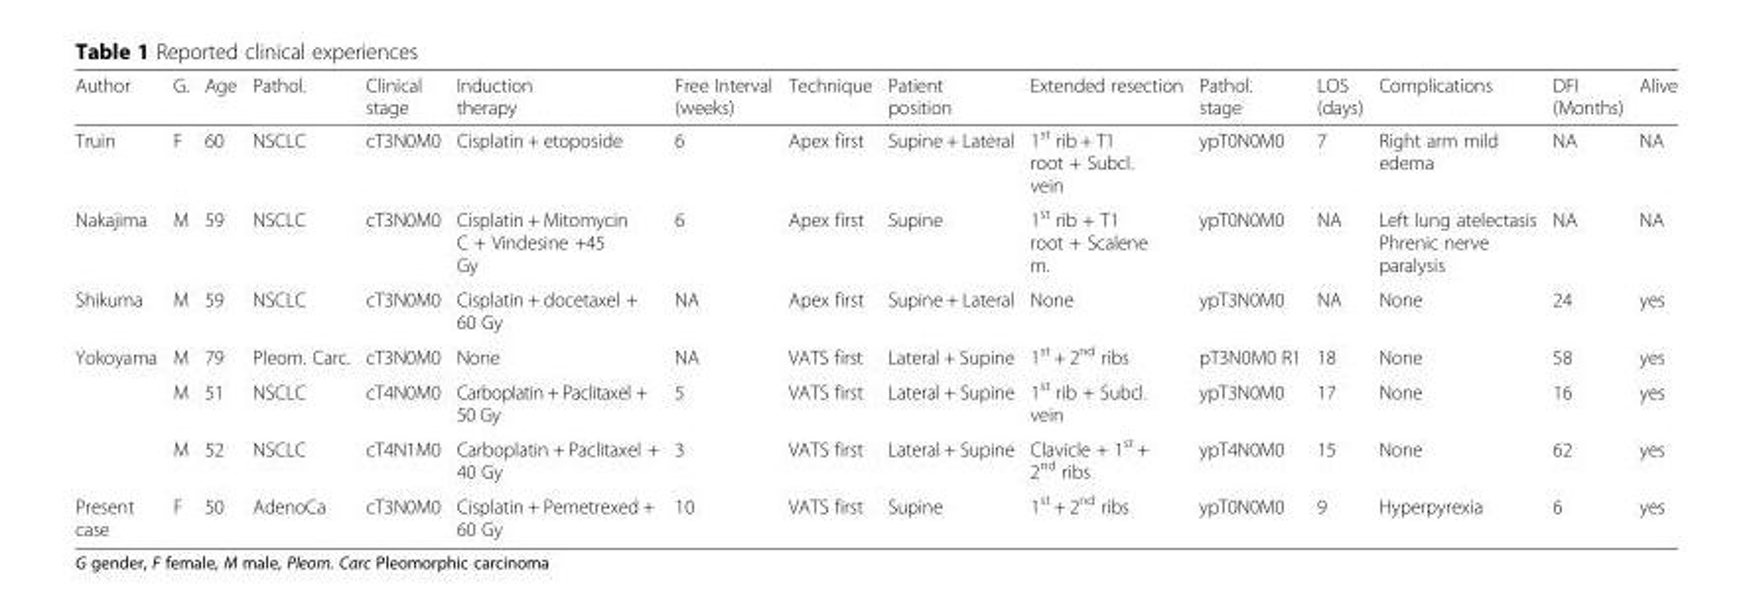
<table><thead><tr><td>Author</td><td>G.</td><td>Age</td><td>Pathol.</td><td>Clinical stage</td><td>Induction therapy</td><td>Free Interval (weeks)</td><td>Technique</td><td>Patient position</td><td>Extended resection</td><td>Pathol. stage</td><td>LOS (days)</td><td>Complications</td><td>DFI (Months)</td><td>Alive</td></tr></thead><tbody><tr><td>Truin</td><td>F</td><td>60</td><td>NSCLC</td><td>cT3N0M0</td><td>Cisplatin + etoposide</td><td>6</td><td>Apex first</td><td>Supine + Lateral</td><td>1<sup>st</sup> rib + T1 root + Subcl. vein</td><td>ypT0N0M0</td><td>7</td><td>Right arm mild edema</td><td>NA</td><td>NA</td></tr><tr><td>Nakajima</td><td>M</td><td>59</td><td>NSCLC</td><td>cT3N0M0</td><td>Cisplatin + Mitomycin C + Vindesine +45 Gy</td><td>6</td><td>Apex first</td><td>Supine</td><td>1<sup>st</sup> rib + T1 root + Scalene m.</td><td>ypT0N0M0</td><td>NA</td><td>Left lung atelectasis Phrenic nerve paralysis</td><td>NA</td><td>NA</td></tr><tr><td>Shikuma</td><td>M</td><td>59</td><td>NSCLC</td><td>cT3N0M0</td><td>Cisplatin + docetaxel + 60 Gy</td><td>NA</td><td>Apex first</td><td>Supine + Lateral</td><td>None</td><td>ypT3N0M0</td><td>NA</td><td>None</td><td>24</td><td>yes</td></tr><tr><td rowspan="3">Yokoyama</td><td>M</td><td>79</td><td>Pleom. Carc.</td><td>cT3N0M0</td><td>None</td><td>NA</td><td>VATS first</td><td>Lateral + Supine</td><td>1<sup>st</sup> + 2<sup>nd</sup> ribs</td><td>pT3N0M0 R1</td><td>18</td><td>None</td><td>58</td><td>yes</td></tr><tr><td>M</td><td>51</td><td>NSCLC</td><td>cT4N0M0</td><td>Carboplatin + Paclitaxel + 50 Gy</td><td>5</td><td>VATS first</td><td>Lateral + Supine</td><td>1<sup>st</sup> rib + Subcl. vein</td><td>ypT3N0M0</td><td>17</td><td>None</td><td>16</td><td>yes</td></tr><tr><td>M</td><td>52</td><td>NSCLC</td><td>cT4N1M0</td><td>Carboplatin + Paclitaxel + 40 Gy</td><td>3</td><td>VATS first</td><td>Lateral + Supine</td><td>Clavicle + 1<sup>st</sup> + 2<sup>nd</sup> ribs</td><td>ypT4N0M0</td><td>15</td><td>None</td><td>62</td><td>yes</td></tr><tr><td>Present case</td><td>F</td><td>50</td><td>AdenoCa</td><td>cT3N0M0</td><td>Cisplatin + Pemetrexed + 60 Gy</td><td>10</td><td>VATS first</td><td>Supine</td><td>1<sup>st</sup> + 2<sup>nd</sup> ribs</td><td>ypT0N0M0</td><td>9</td><td>Hyperpyrexia</td><td>6</td><td>yes</td></tr></tbody></table>